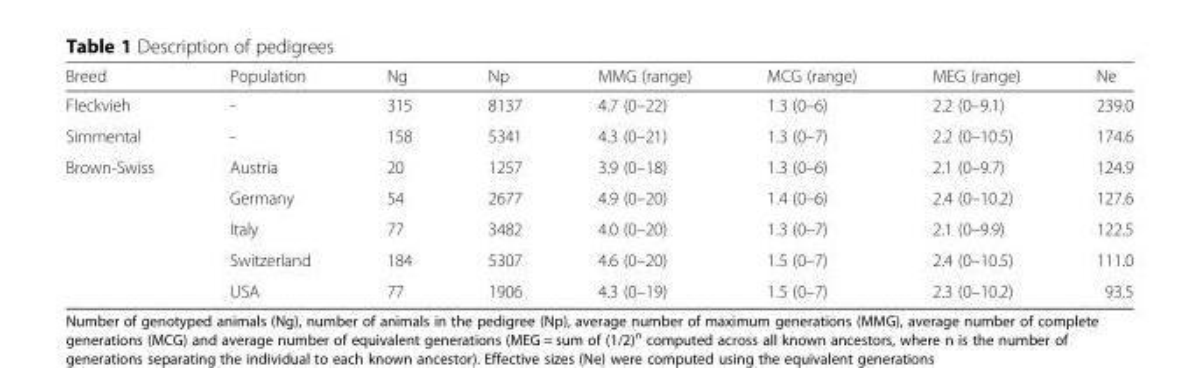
<table><thead><tr><td>Breed</td><td>Population</td><td>Ng</td><td>Np</td><td>MMG (range)</td><td>MCG (range)</td><td>MEG (range)</td><td>Ne</td></tr></thead><tbody><tr><td>Fleckvieh</td><td>-</td><td>315</td><td>8137</td><td>4.7 (0–22)</td><td>1.3 (0–6)</td><td>2.2 (0–9.1)</td><td>239.0</td></tr><tr><td>Simmental</td><td>-</td><td>158</td><td>5341</td><td>4.3 (0–21)</td><td>1.3 (0–7)</td><td>2.2 (0–10.5)</td><td>174.6</td></tr><tr><td rowspan="5">Brown-Swiss</td><td>Austria</td><td>20</td><td>1257</td><td>3.9 (0–18)</td><td>1.3 (0–6)</td><td>2.1 (0–9.7)</td><td>124.9</td></tr><tr><td>Germany</td><td>54</td><td>2677</td><td>4.9 (0–20)</td><td>1.4 (0–6)</td><td>2.4 (0–10.2)</td><td>127.6</td></tr><tr><td>Italy</td><td>77</td><td>3482</td><td>4.0 (0–20)</td><td>1.3 (0–7)</td><td>2.1 (0–9.9)</td><td>122.5</td></tr><tr><td>Switzerland</td><td>184</td><td>5307</td><td>4.6 (0–20)</td><td>1.5 (0–7)</td><td>2.4 (0–10.5)</td><td>111.0</td></tr><tr><td>USA</td><td>77</td><td>1906</td><td>4.3 (0–19)</td><td>1.5 (0–7)</td><td>2.3 (0–10.2)</td><td>93.5</td></tr></tbody></table>